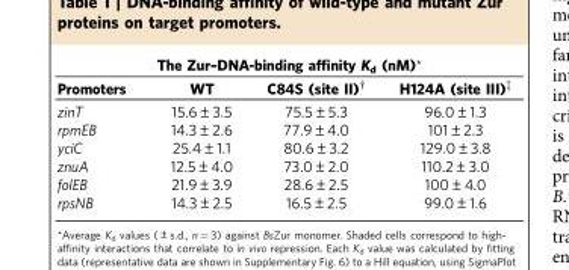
<table><thead><tr><td colspan="4">The Zur–DNA-binding affinity K<sub>d</sub> (nM)*</td></tr><tr><td>Promoters</td><td>WT</td><td>C84S (site II)†</td><td>H124A (site III)‡</td></tr></thead><tbody><tr><td>zinT</td><td>15.6±3.5</td><td>75.5±5.3</td><td>96.0±1.3</td></tr><tr><td>rpmEB</td><td>14.3±2.6</td><td>77.9±4.0</td><td>101±2.3</td></tr><tr><td>yciC</td><td>25.4±1.1</td><td>80.6±3.2</td><td>129.0±3.8</td></tr><tr><td>znuA</td><td>12.5±4.0</td><td>73.0±2.0</td><td>110.2±3.0</td></tr><tr><td>folEB</td><td>21.9±3.9</td><td>28.6±2.5</td><td>100±4.0</td></tr><tr><td>rpsNB</td><td>14.3±2.5</td><td>16.5±2.5</td><td>99.0±1.6</td></tr></tbody></table>